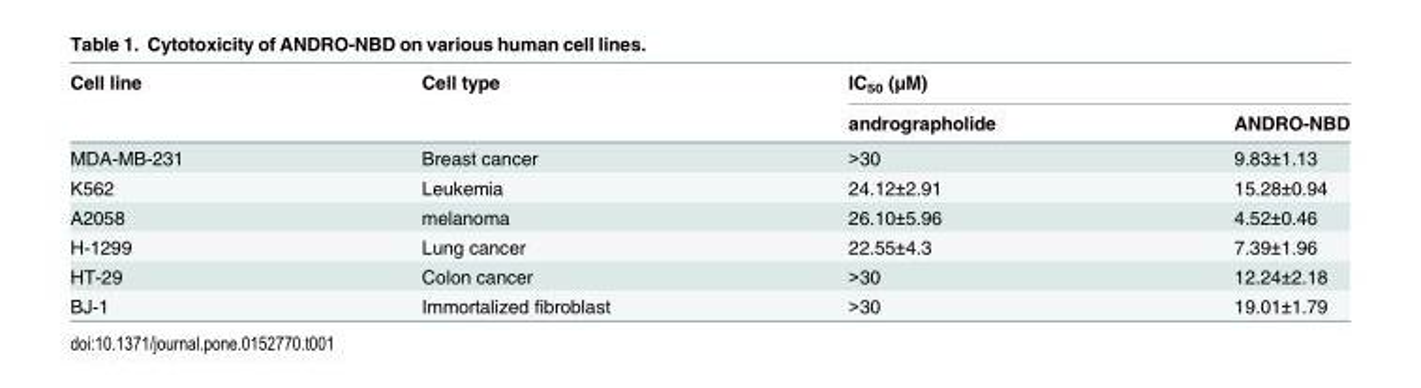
<table><thead><tr><td rowspan="2">Cell line</td><td rowspan="2">Cell type</td><td colspan="2">IC<sub>50</sub> (μM)</td></tr><tr><td>andrographolide</td><td>ANDRO-NBD</td></tr></thead><tbody><tr><td>MDA-MB-231</td><td>Breast cancer</td><td>&gt;30</td><td>9.83±1.13</td></tr><tr><td>K562</td><td>Leukemia</td><td>24.12±2.91</td><td>15.28±0.94</td></tr><tr><td>A2058</td><td>melanoma</td><td>26.10±5.96</td><td>4.52±0.46</td></tr><tr><td>H-1299</td><td>Lung cancer</td><td>22.55±4.3</td><td>7.39±1.96</td></tr><tr><td>HT-29</td><td>Colon cancer</td><td>&gt;30</td><td>12.24±2.18</td></tr><tr><td>BJ-1</td><td>Immortalized fibroblast</td><td>&gt;30</td><td>19.01±1.79</td></tr></tbody></table>